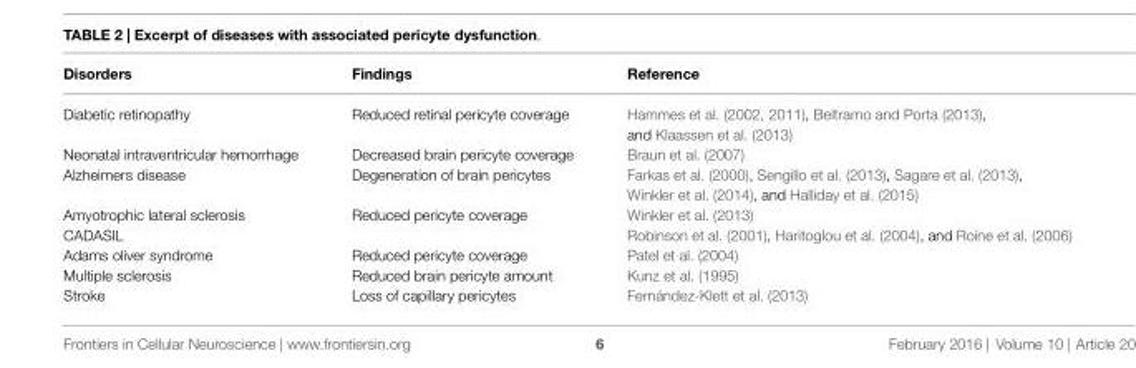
<table><thead><tr><td>Disorders</td><td>Findings</td><td>Reference</td></tr></thead><tbody><tr><td>Diabetic retinopathy</td><td>Reduced retinal pericyte coverage</td><td>Hammes et al. (2002, 2011), Beltramo and Porta (2013), and Klaassen et al. (2013)</td></tr><tr><td>Neonatal intraventricular hemorrhage</td><td>Decreased brain pericyte coverage</td><td>Braun et al. (2007)</td></tr><tr><td>Alzheimers disease</td><td>Degeneration of brain pericytes</td><td>Farkas et al. (2000), Sengillo et al. (2013), Sagare et al. (2013), Winkler et al. (2014), and Halliday et al. (2015)</td></tr><tr><td>Amyotrophic lateral sclerosis</td><td>Reduced pericyte coverage</td><td>Winkler et al. (2013)</td></tr><tr><td>CADASIL</td><td></td><td>Robinson et al. (2001), Haritoglou et al. (2004), and Roine et al. (2006)</td></tr><tr><td>Adams oliver syndrome</td><td>Reduced pericyte coverage</td><td>Patel et al. (2004)</td></tr><tr><td>Multiple sclerosis</td><td>Reduced brain pericyte amount</td><td>Kunz et al. (1995)</td></tr><tr><td>Stroke</td><td>Loss of capillary pericytes</td><td>Fernández-Klett et al. (2013)</td></tr></tbody></table>